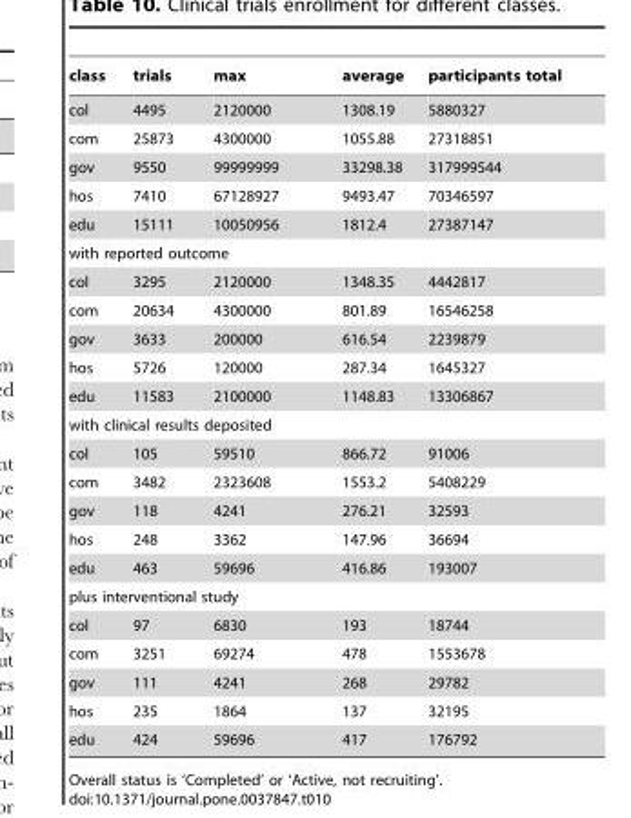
<table><thead><tr><td>class</td><td>trials</td><td>max</td><td>average</td><td>participants total</td></tr></thead><tbody><tr><td>col</td><td>4495</td><td>2120000</td><td>1308.19</td><td>5880327</td></tr><tr><td>com</td><td>25873</td><td>4300000</td><td>1055.88</td><td>27318851</td></tr><tr><td>gov</td><td>9550</td><td>99999999</td><td>33298.38</td><td>317999544</td></tr><tr><td>hos</td><td>7410</td><td>67128927</td><td>9493.47</td><td>70346597</td></tr><tr><td>edu</td><td>15111</td><td>10050956</td><td>1812.4</td><td>27387147</td></tr><tr><td colspan="5">with reported outcome</td></tr><tr><td>col</td><td>3295</td><td>2120000</td><td>1348.35</td><td>4442817</td></tr><tr><td>com</td><td>20634</td><td>4300000</td><td>801.89</td><td>16546258</td></tr><tr><td>gov</td><td>3633</td><td>200000</td><td>616.54</td><td>2239879</td></tr><tr><td>hos</td><td>5726</td><td>120000</td><td>287.34</td><td>1645327</td></tr><tr><td>edu</td><td>11583</td><td>2100000</td><td>1148.83</td><td>13306867</td></tr><tr><td colspan="5">with clinical results deposited</td></tr><tr><td>col</td><td>105</td><td>59510</td><td>866.72</td><td>91006</td></tr><tr><td>com</td><td>3482</td><td>2323608</td><td>1553.2</td><td>5408229</td></tr><tr><td>gov</td><td>118</td><td>4241</td><td>276.21</td><td>32593</td></tr><tr><td>hos</td><td>248</td><td>3362</td><td>147.96</td><td>36694</td></tr><tr><td>edu</td><td>463</td><td>59696</td><td>416.86</td><td>193007</td></tr><tr><td colspan="5">plus interventional study</td></tr><tr><td>col</td><td>97</td><td>6830</td><td>193</td><td>18744</td></tr><tr><td>com</td><td>3251</td><td>69274</td><td>478</td><td>1553678</td></tr><tr><td>gov</td><td>111</td><td>4241</td><td>268</td><td>29782</td></tr><tr><td>hos</td><td>235</td><td>1864</td><td>137</td><td>32195</td></tr><tr><td>edu</td><td>424</td><td>59696</td><td>417</td><td>176792</td></tr></tbody></table>